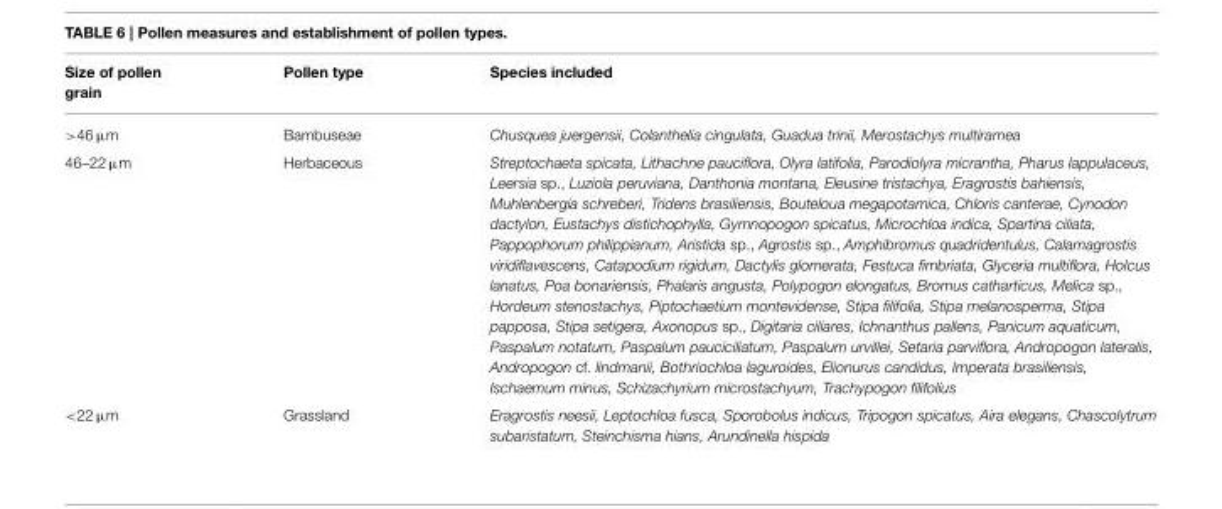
<table><thead><tr><td>Size of pollen grain</td><td>Pollen type</td><td>Species included</td></tr></thead><tbody><tr><td>&gt;46 µm</td><td>Bambuseae</td><td>Chusquea juergensii, Colanthelia cingulata, Guadua trinii, Merostachys multiramea</td></tr><tr><td>46–22 µm</td><td>Herbaceous</td><td>Streptochaeta spicata, Lithachne pauciflora, Olyra latifolia, Parodiolyra micrantha, Pharus lappulaceus, Leersia sp., Luziola peruviana, Danthonia montana, Eleusine tristachya, Eragrostis bahiensis, Muhlenbergia schreberi, Tridens brasiliensis, Bouteloua megapotamica, Chloris canterae, Cynodon dactylon, Eustachys distichophylla, Gymnopogon spicatus, Microchloa indica, Spartina ciliata, Pappophorum philippianum, Aristida sp., Agrostis sp., Amphibromus quadridentulus, Calamagrostis viridiflavescens, Catapodium rigidum, Dactylis glomerata, Festuca fimbriata, Glyceria multiflora, Holcus lanatus, Poa bonariensis, Phalaris angusta, Polypogon elongatus, Bromus catharticus, Melica sp., Hordeum stenostachys, Piptochaetium montevidense, Stipa filifolia, Stipa melanosperma, Stipa papposa, Stipa setigera, Axonopus sp., Digitaria ciliares, Ichnanthus pallens, Panicum aquaticum, Paspalum notatum, Paspalum pauciciliatum, Paspalum urvillei, Setaria parviflora, Andropogon lateralis, Andropogon cf. lindmanii, Bothriochloa laguroides, Elionurus candidus, Imperata brasiliensis, Ischaemum minus, Schizachyrium microstachyum, Trachypogon filifolius</td></tr><tr><td>&lt;22 µm</td><td>Grassland</td><td>Eragrostis neesii, Leptochloa fusca, Sporobolus indicus, Tripogon spicatus, Aira elegans, Chascolytrum subaristatum, Steinchisma hians, Arundinella hispida</td></tr></tbody></table>